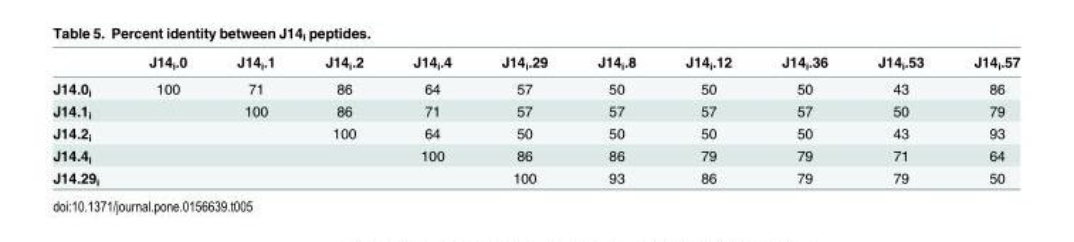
<table><thead><tr><td></td><td>J14<sub>i</sub>.0</td><td>J14<sub>i</sub>.1</td><td>J14<sub>i</sub>.2</td><td>J14<sub>i</sub>.4</td><td>J14<sub>i</sub>.29</td><td>J14<sub>i</sub>.8</td><td>J14<sub>i</sub>.12</td><td>J14<sub>i</sub>.36</td><td>J14<sub>i</sub>.53</td><td>J14<sub>i</sub>.57</td></tr></thead><tbody><tr><td>J14.0<sub>i</sub></td><td>100</td><td>71</td><td>86</td><td>64</td><td>57</td><td>50</td><td>50</td><td>50</td><td>43</td><td>86</td></tr><tr><td>J14.1<sub>i</sub></td><td></td><td>100</td><td>86</td><td>71</td><td>57</td><td>57</td><td>57</td><td>57</td><td>50</td><td>79</td></tr><tr><td>J14.2<sub>i</sub></td><td></td><td></td><td>100</td><td>64</td><td>50</td><td>50</td><td>50</td><td>50</td><td>43</td><td>93</td></tr><tr><td>J14.4<sub>i</sub></td><td></td><td></td><td></td><td>100</td><td>86</td><td>86</td><td>79</td><td>79</td><td>71</td><td>64</td></tr><tr><td>J14.29<sub>i</sub></td><td></td><td></td><td></td><td></td><td>100</td><td>93</td><td>86</td><td>79</td><td>79</td><td>50</td></tr></tbody></table>